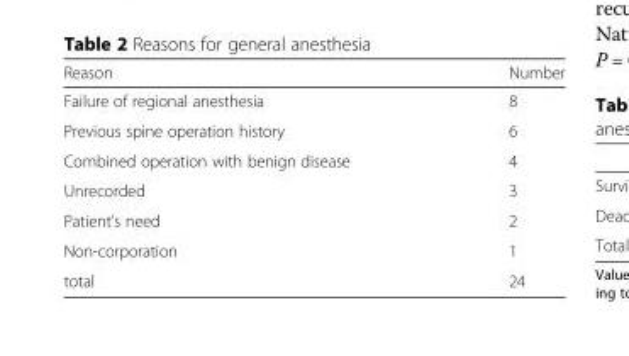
<table><thead><tr><td>Reason</td><td>Number</td></tr></thead><tbody><tr><td>Failure of regional anesthesia</td><td>8</td></tr><tr><td>Previous spine operation history</td><td>6</td></tr><tr><td>Combined operation with benign disease</td><td>4</td></tr><tr><td>Unrecorded</td><td>3</td></tr><tr><td>Patient’s need</td><td>2</td></tr><tr><td>Non-corporation</td><td>1</td></tr><tr><td>total</td><td>24</td></tr></tbody></table>